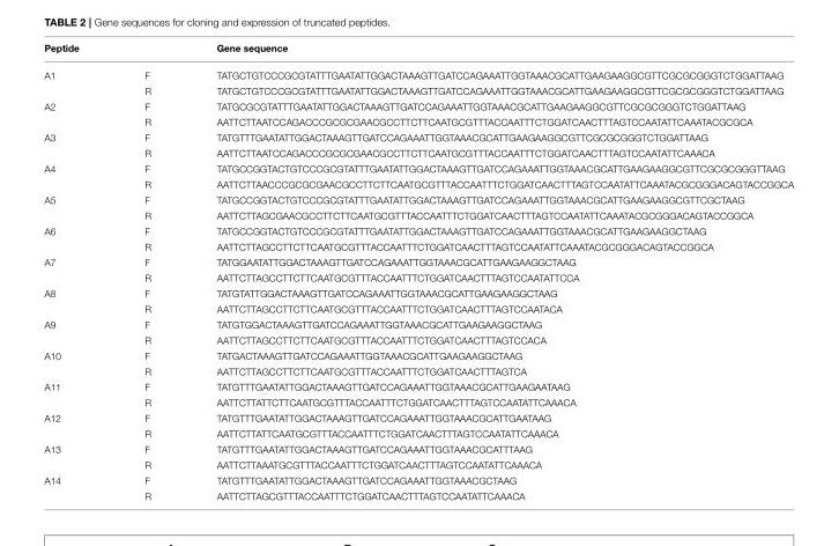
<table><thead><tr><td>Peptide</td><td></td><td>Gene sequence</td></tr></thead><tbody><tr><td rowspan="2">A1</td><td>F</td><td>TATGCTGTCCCGCGTATTTGAATATTGGACTAAAGTTGATCCAGAAATTGGTAAACGCATTGAAGAAGGCGTTCGCGCGGGTCTGGATTAAG</td></tr><tr><td>R</td><td>TATGCTGTCCCGCGTATTTGAATATTGGACTAAAGTTGATCCAGAAATTGGTAAACGCATTGAAGAAGGCGTTCGCGCGGGTCTGGATTAAG</td></tr><tr><td rowspan="2">A2</td><td>F</td><td>TATGCGCGTATTTGAATATTGGACTAAAGTTGATCCAGAAATTGGTAAACGCATTGAAGAAGGCGTTCGCGCGGGTCTGGATTAAG</td></tr><tr><td>R</td><td>AATTCTTAATCCAGACCCGCGCGAACGCCTTCTTCAATGCGTTTACCAATTTCTGGATCAACTTTAGTCCAATATTCAAATACGCGCA</td></tr><tr><td rowspan="2">A3</td><td>F</td><td>TATGTTTGAATATTGGACTAAAGTTGATCCAGAAATTGGTAAACGCATTGAAGAAGGCGTTCGCGCGGGTCTGGATTAAG</td></tr><tr><td>R</td><td>AATTCTTAATCCAGACCCGCGCGAACGCCTTCTTCAATGCGTTTACCAATTTCTGGATCAACTTTAGTCCAATATTCAAACA</td></tr><tr><td rowspan="2">A4</td><td>F</td><td>TATGCCGGTACTGTCCCGCGTATTTGAATATTGGACTAAAGTTGATCCAGAAATTGGTAAACGCATTGAAGAAGGCGTTCGCGCGGGTTAAG</td></tr><tr><td>R</td><td>AATTCTTAACCCGCGCGAACGCCTTCTTCAATGCGTTTACCAATTTCTGGATCAACTTTAGTCCAATATTCAAATACGCGGGACAGTACCGGCA</td></tr><tr><td rowspan="2">A5</td><td>F</td><td>TATGCCGGTACTGTCCCGCGTATTTGAATATTGGACTAAAGTTGATCCAGAAATTGGTAAACGCATTGAAGAAGGCGTTCGCTAAG</td></tr><tr><td>R</td><td>AATTCTTAGCGAACGCCTTCTTCAATGCGTTTACCAATTTCTGGATCAACTTTAGTCCAATATTCAAATACGCGGGACAGTACCGGCA</td></tr><tr><td rowspan="2">A6</td><td>F</td><td>TATGCCGGTACTGTCCCGCGTATTTGAATATTGGACTAAAGTTGATCCAGAAATTGGTAAACGCATTGAAGAAGGCTAAG</td></tr><tr><td>R</td><td>AATTCTTAGCCTTCTTCAATGCGTTTACCAATTTCTGGATCAACTTTAGTCCAATATTCAAATACGCGGGACAGTACCGGCA</td></tr><tr><td rowspan="2">A7</td><td>F</td><td>TATGGAATATTGGACTAAAGTTGATCCAGAAATTGGTAAACGCATTGAAGAAGGCTAAG</td></tr><tr><td>R</td><td>AATTCTTAGCCTTCTTCAATGCGTTTACCAATTTCTGGATCAACTTTAGTCCAATATTCCA</td></tr><tr><td rowspan="2">A8</td><td>F</td><td>TATGTATTGGACTAAAGTTGATCCAGAAATTGGTAAACGCATTGAAGAAGGCTAAG</td></tr><tr><td>R</td><td>AATTCTTAGCCTTCTTCAATGCGTTTACCAATTTCTGGATCAACTTTAGTCCAATACA</td></tr><tr><td rowspan="2">A9</td><td>F</td><td>TATGTGGACTAAAGTTGATCCAGAAATTGGTAAACGCATTGAAGAAGGCTAAG</td></tr><tr><td>R</td><td>AATTCTTAGCCTTCTTCAATGCGTTTACCAATTTCTGGATCAACTTTAGTCCACA</td></tr><tr><td rowspan="2">A10</td><td>F</td><td>TATGACTAAAGTTGATCCAGAAATTGGTAAACGCATTGAAGAAGGCTAAG</td></tr><tr><td>R</td><td>AATTCTTAGCCTTCTTCAATGCGTTTACCAATTTCTGGATCAACTTTAGTCA</td></tr><tr><td rowspan="2">A11</td><td>F</td><td>TATGTTTGAATATTGGACTAAAGTTGATCCAGAAATTGGTAAACGCATTGAAGAATAAG</td></tr><tr><td>R</td><td>AATTCTTATTCTTCAATGCGTTTACCAATTTCTGGATCAACTTTAGTCCAATATTCAAACA</td></tr><tr><td rowspan="2">A12</td><td>F</td><td>TATGTTTGAATATTGGACTAAAGTTGATCCAGAAATTGGTAAACGCATTGAATAAG</td></tr><tr><td>R</td><td>AATTCTTATTCAATGCGTTTACCAATTTCTGGATCAACTTTAGTCCAATATTCAAACA</td></tr><tr><td rowspan="2">A13</td><td>F</td><td>TATGTTTGAATATTGGACTAAAGTTGATCCAGAAATTGGTAAACGCATTTAAG</td></tr><tr><td>R</td><td>AATTCTTAAATGCGTTTACCAATTTCTGGATCAACTTTAGTCCAATATTCAAACA</td></tr><tr><td rowspan="2">A14</td><td>F</td><td>TATGTTTGAATATTGGACTAAAGTTGATCCAGAAATTGGTAAACGCTAAG</td></tr><tr><td>R</td><td>AATTCTTAGCGTTTACCAATTTCTGGATCAACTTTAGTCCAATATTCAAACA</td></tr></tbody></table>